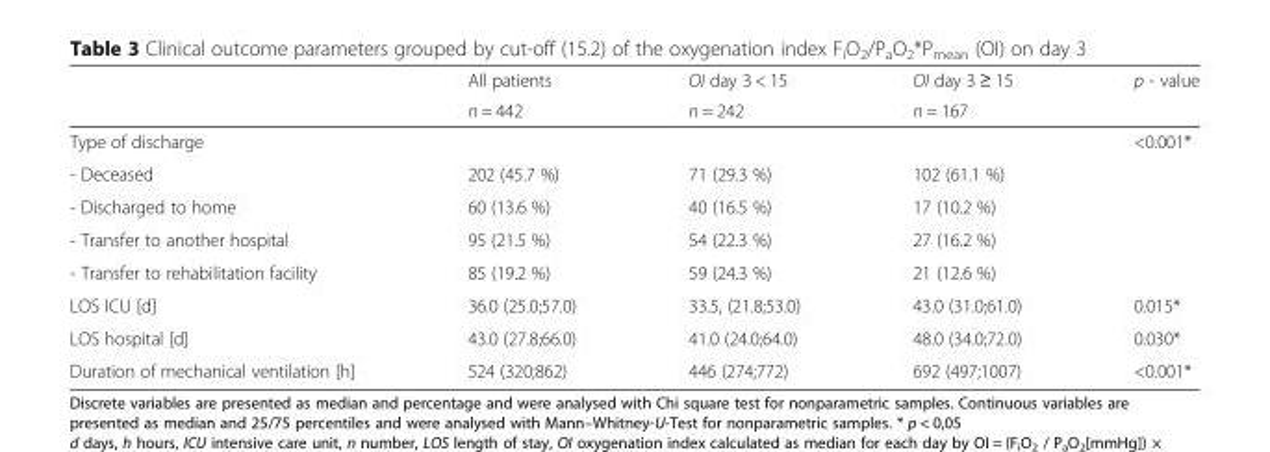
<table><thead><tr><td rowspan="2"></td><td rowspan="2">All patients n = 442</td><td rowspan="2">OI day 3 &lt; 15 n = 242</td><td rowspan="2">OI day 3 ≥ 15 n = 167</td><td rowspan="2">p - value</td></tr><tr></tr></thead><tbody><tr><td colspan="4">Type of discharge</td><td>&lt;0.001*</td></tr><tr><td>- Deceased</td><td>202 (45.7 %)</td><td>71 (29.3 %)</td><td>102 (61.1 %)</td><td></td></tr><tr><td>- Discharged to home</td><td>60 (13.6 %)</td><td>40 (16.5 %)</td><td>17 (10.2 %)</td><td></td></tr><tr><td>- Transfer to another hospital</td><td>95 (21.5 %)</td><td>54 (22.3 %)</td><td>27 (16.2 %)</td><td></td></tr><tr><td>- Transfer to rehabilitation facility</td><td>85 (19.2 %)</td><td>59 (24.3 %)</td><td>21 (12.6 %)</td><td></td></tr><tr><td>LOS ICU [d]</td><td>36.0 (25.0;57.0)</td><td>33.5, (21.8;53.0)</td><td>43.0 (31.0;61.0)</td><td>0.015*</td></tr><tr><td>LOS hospital [d]</td><td>43.0 (27.8;66.0)</td><td>41.0 (24.0;64.0)</td><td>48.0 (34.0;72.0)</td><td>0.030*</td></tr><tr><td>Duration of mechanical ventilation [h]</td><td>524 (320;862)</td><td>446 (274;772)</td><td>692 (497;1007)</td><td>&lt;0.001*</td></tr></tbody></table>